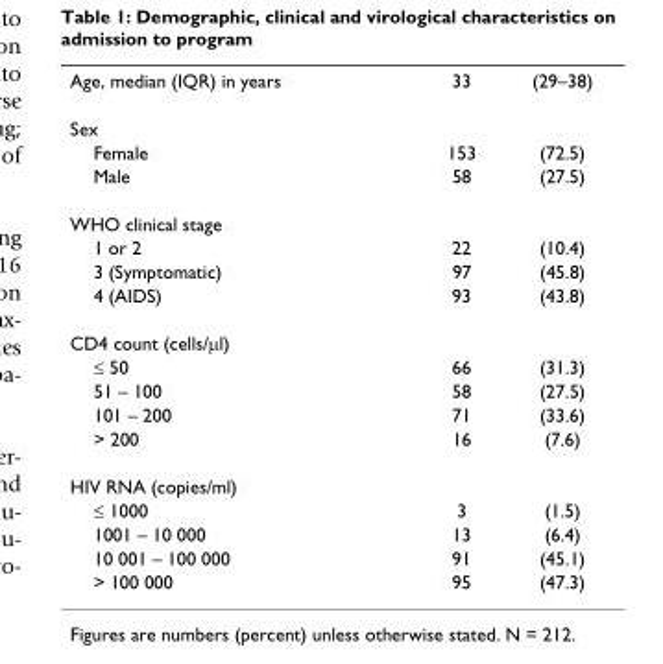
<table><tbody><tr><td>Age, median (IQR) in years</td><td>33</td><td>(29–38)</td></tr><tr><td colspan="3">Sex</td></tr><tr><td>Female</td><td>153</td><td>(72.5)</td></tr><tr><td>Male</td><td>58</td><td>(27.5)</td></tr><tr><td colspan="3">WHO clinical stage</td></tr><tr><td>1 or 2</td><td>22</td><td>(10.4)</td></tr><tr><td>3 (Symptomatic)</td><td>97</td><td>(45.8)</td></tr><tr><td>4 (AIDS)</td><td>93</td><td>(43.8)</td></tr><tr><td colspan="3">CD4 count (cells/µl)</td></tr><tr><td>≤ 50</td><td>66</td><td>(31.3)</td></tr><tr><td>51 – 100</td><td>58</td><td>(27.5)</td></tr><tr><td>101 – 200</td><td>71</td><td>(33.6)</td></tr><tr><td>&gt; 200</td><td>16</td><td>(7.6)</td></tr><tr><td colspan="3">HIV RNA (copies/ml)</td></tr><tr><td>≤ 1000</td><td>3</td><td>(1.5)</td></tr><tr><td>1001 – 10 000</td><td>13</td><td>(6.4)</td></tr><tr><td>10 001 – 100 000</td><td>91</td><td>(45.1)</td></tr><tr><td>&gt; 100 000</td><td>95</td><td>(47.3)</td></tr></tbody></table>